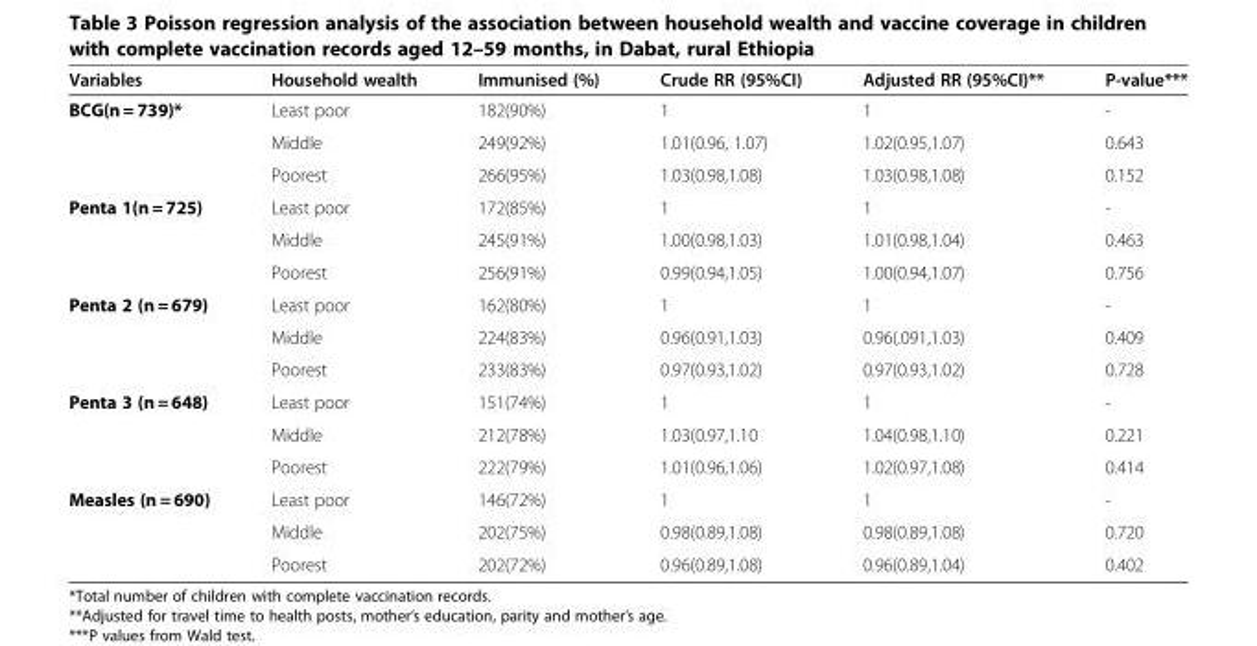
<table><thead><tr><td>Variables</td><td>Household wealth</td><td>Immunised (%)</td><td>Crude RR (95%CI)</td><td>Adjusted RR (95%CI)**</td><td>P-value***</td></tr></thead><tbody><tr><td rowspan="3">BCG(n = 739)*</td><td>Least poor</td><td>182(90%)</td><td>1</td><td>1</td><td>-</td></tr><tr><td>Middle</td><td>249(92%)</td><td>1.01(0.96, 1.07)</td><td>1.02(0.95,1.07)</td><td>0.643</td></tr><tr><td>Poorest</td><td>266(95%)</td><td>1.03(0.98,1.08)</td><td>1.03(0.98,1.08)</td><td>0.152</td></tr><tr><td rowspan="3">Penta 1(n = 725)</td><td>Least poor</td><td>172(85%)</td><td>1</td><td>1</td><td>-</td></tr><tr><td>Middle</td><td>245(91%)</td><td>1.00(0.98,1.03)</td><td>1.01(0.98,1.04)</td><td>0.463</td></tr><tr><td>Poorest</td><td>256(91%)</td><td>0.99(0.94,1.05)</td><td>1.00(0.94,1.07)</td><td>0.756</td></tr><tr><td rowspan="3">Penta 2 (n = 679)</td><td>Least poor</td><td>162(80%)</td><td>1</td><td>1</td><td>-</td></tr><tr><td>Middle</td><td>224(83%)</td><td>0.96(0.91,1.03)</td><td>0.96(.091,1.03)</td><td>0.409</td></tr><tr><td>Poorest</td><td>233(83%)</td><td>0.97(0.93,1.02)</td><td>0.97(0.93,1.02)</td><td>0.728</td></tr><tr><td rowspan="3">Penta 3 (n = 648)</td><td>Least poor</td><td>151(74%)</td><td>1</td><td>1</td><td>-</td></tr><tr><td>Middle</td><td>212(78%)</td><td>1.03(0.97,1.10</td><td>1.04(0.98,1.10)</td><td>0.221</td></tr><tr><td>Poorest</td><td>222(79%)</td><td>1.01(0.96,1.06)</td><td>1.02(0.97,1.08)</td><td>0.414</td></tr><tr><td rowspan="3">Measles (n = 690)</td><td>Least poor</td><td>146(72%)</td><td>1</td><td>1</td><td>-</td></tr><tr><td>Middle</td><td>202(75%)</td><td>0.98(0.89,1.08)</td><td>0.98(0.89,1.08)</td><td>0.720</td></tr><tr><td>Poorest</td><td>202(72%)</td><td>0.96(0.89,1.08)</td><td>0.96(0.89,1.04)</td><td>0.402</td></tr></tbody></table>